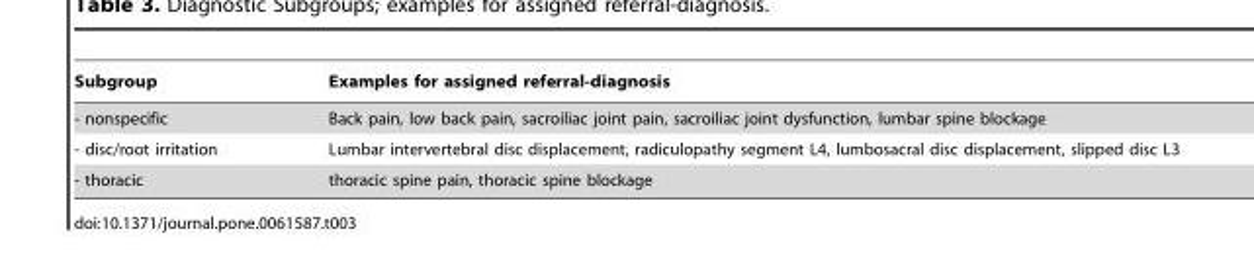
<table><thead><tr><td>Subgroup</td><td>Examples for assigned referral-diagnosis</td></tr></thead><tbody><tr><td>- nonspecific</td><td>Back pain, low back pain, sacroiliac joint pain, sacroiliac joint dysfunction, lumbar spine blockage</td></tr><tr><td>- disc/root irritation</td><td>Lumbar intervertebral disc displacement, radiculopathy segment L4, lumbosacral disc displacement, slipped disc L3</td></tr><tr><td>- thoracic</td><td>thoracic spine pain, thoracic spine blockage</td></tr></tbody></table>